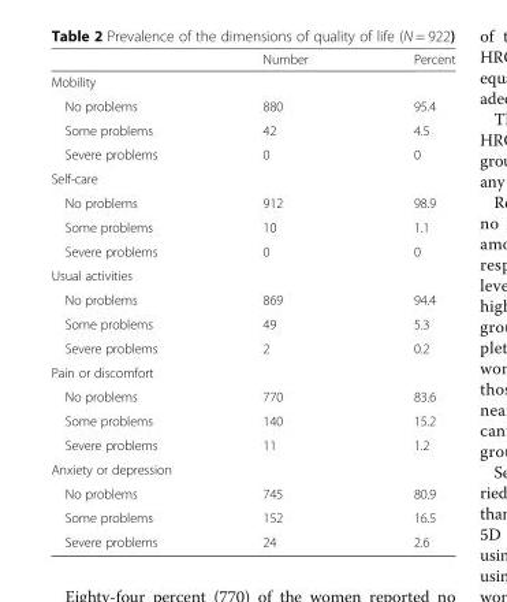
<table><thead><tr><td></td><td>Number</td><td>Percent</td></tr></thead><tbody><tr><td colspan="3">Mobility</td></tr><tr><td>No problems</td><td>880</td><td>95.4</td></tr><tr><td>Some problems</td><td>42</td><td>4.5</td></tr><tr><td>Severe problems</td><td>0</td><td>0</td></tr><tr><td colspan="3">Self-care</td></tr><tr><td>No problems</td><td>912</td><td>98.9</td></tr><tr><td>Some problems</td><td>10</td><td>1.1</td></tr><tr><td>Severe problems</td><td>0</td><td>0</td></tr><tr><td colspan="3">Usual activities</td></tr><tr><td>No problems</td><td>869</td><td>94.4</td></tr><tr><td>Some problems</td><td>49</td><td>5.3</td></tr><tr><td>Severe problems</td><td>2</td><td>0.2</td></tr><tr><td colspan="3">Pain or discomfort</td></tr><tr><td>No problems</td><td>770</td><td>83.6</td></tr><tr><td>Some problems</td><td>140</td><td>15.2</td></tr><tr><td>Severe problems</td><td>11</td><td>1.2</td></tr><tr><td colspan="3">Anxiety or depression</td></tr><tr><td>No problems</td><td>745</td><td>80.9</td></tr><tr><td>Some problems</td><td>152</td><td>16.5</td></tr><tr><td>Severe problems</td><td>24</td><td>2.6</td></tr></tbody></table>